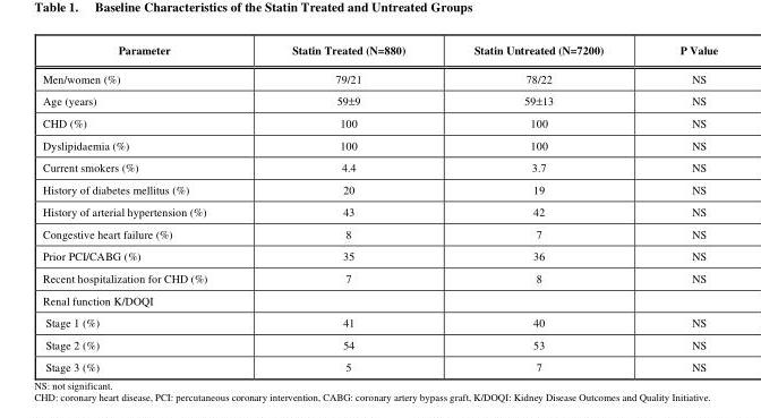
<table><thead><tr><td>Parameter</td><td>Statin Treated (N=880)</td><td>Statin Untreated (N=7200)</td><td>P Value</td></tr></thead><tbody><tr><td>Men/women (%)</td><td>79/21</td><td>78/22</td><td>NS</td></tr><tr><td>Age (years)</td><td>59±9</td><td>59±13</td><td>NS</td></tr><tr><td>CHD (%)</td><td>100</td><td>100</td><td>NS</td></tr><tr><td>Dyslipidaemia (%)</td><td>100</td><td>100</td><td>NS</td></tr><tr><td>Current smokers (%)</td><td>4.4</td><td>3.7</td><td>NS</td></tr><tr><td>History of diabetes mellitus (%)</td><td>20</td><td>19</td><td>NS</td></tr><tr><td>History of arterial hypertension (%)</td><td>43</td><td>42</td><td>NS</td></tr><tr><td>Congestive heart failure (%)</td><td>8</td><td>7</td><td>NS</td></tr><tr><td>Prior PCI/CABG (%)</td><td>35</td><td>36</td><td>NS</td></tr><tr><td>Recent hospitalization for CHD (%)</td><td>7</td><td>8</td><td>NS</td></tr><tr><td colspan="4">Renal function K/DOQI</td></tr><tr><td>Stage 1 (%)</td><td>41</td><td>40</td><td>NS</td></tr><tr><td>Stage 2 (%)</td><td>54</td><td>53</td><td>NS</td></tr><tr><td>Stage 3 (%)</td><td>5</td><td>7</td><td>NS</td></tr></tbody></table>